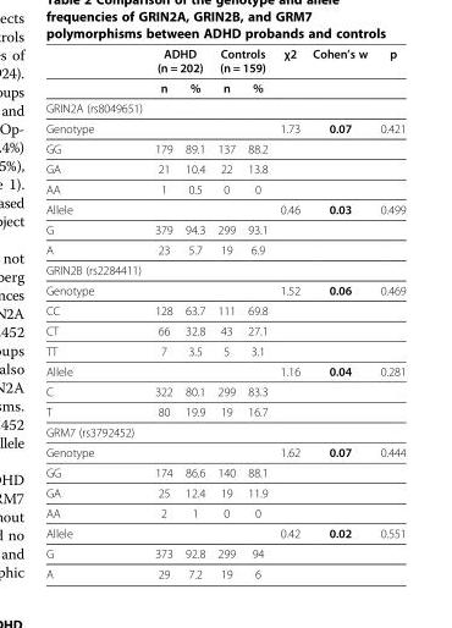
<table><thead><tr><td rowspan="2"></td><td colspan="2">ADHD (n = 202)</td><td colspan="2">Controls (n = 159)</td><td rowspan="2">χ2</td><td rowspan="2">Cohen’s w</td><td rowspan="2">p</td></tr><tr><td>n</td><td>%</td><td>n</td><td>%</td></tr></thead><tbody><tr><td colspan="8">GRIN2A (rs8049651)</td></tr><tr><td>Genotype</td><td></td><td></td><td></td><td></td><td>1.73</td><td>0.07</td><td>0.421</td></tr><tr><td>GG</td><td>179</td><td>89.1</td><td>137</td><td>88.2</td><td></td><td></td><td></td></tr><tr><td>GA</td><td>21</td><td>10.4</td><td>22</td><td>13.8</td><td></td><td></td><td></td></tr><tr><td>AA</td><td>1</td><td>0.5</td><td>0</td><td>0</td><td></td><td></td><td></td></tr><tr><td>Allele</td><td></td><td></td><td></td><td></td><td>0.46</td><td>0.03</td><td>0.499</td></tr><tr><td>G</td><td>379</td><td>94.3</td><td>299</td><td>93.1</td><td></td><td></td><td></td></tr><tr><td>A</td><td>23</td><td>5.7</td><td>19</td><td>6.9</td><td></td><td></td><td></td></tr><tr><td colspan="8">GRIN2B (rs2284411)</td></tr><tr><td>Genotype</td><td></td><td></td><td></td><td></td><td>1.52</td><td>0.06</td><td>0.469</td></tr><tr><td>CC</td><td>128</td><td>63.7</td><td>111</td><td>69.8</td><td></td><td></td><td></td></tr><tr><td>CT</td><td>66</td><td>32.8</td><td>43</td><td>27.1</td><td></td><td></td><td></td></tr><tr><td>TT</td><td>7</td><td>3.5</td><td>5</td><td>3.1</td><td></td><td></td><td></td></tr><tr><td>Allele</td><td></td><td></td><td></td><td></td><td>1.16</td><td>0.04</td><td>0.281</td></tr><tr><td>C</td><td>322</td><td>80.1</td><td>299</td><td>83.3</td><td></td><td></td><td></td></tr><tr><td>T</td><td>80</td><td>19.9</td><td>19</td><td>16.7</td><td></td><td></td><td></td></tr><tr><td colspan="8">GRM7 (rs3792452)</td></tr><tr><td>Genotype</td><td></td><td></td><td></td><td></td><td>1.62</td><td>0.07</td><td>0.444</td></tr><tr><td>GG</td><td>174</td><td>86.6</td><td>140</td><td>88.1</td><td></td><td></td><td></td></tr><tr><td>GA</td><td>25</td><td>12.4</td><td>19</td><td>11.9</td><td></td><td></td><td></td></tr><tr><td>AA</td><td>2</td><td>1</td><td>0</td><td>0</td><td></td><td></td><td></td></tr><tr><td>Allele</td><td></td><td></td><td></td><td></td><td>0.42</td><td>0.02</td><td>0.551</td></tr><tr><td>G</td><td>373</td><td>92.8</td><td>299</td><td>94</td><td></td><td></td><td></td></tr><tr><td>A</td><td>29</td><td>7.2</td><td>19</td><td>6</td><td></td><td></td><td></td></tr></tbody></table>